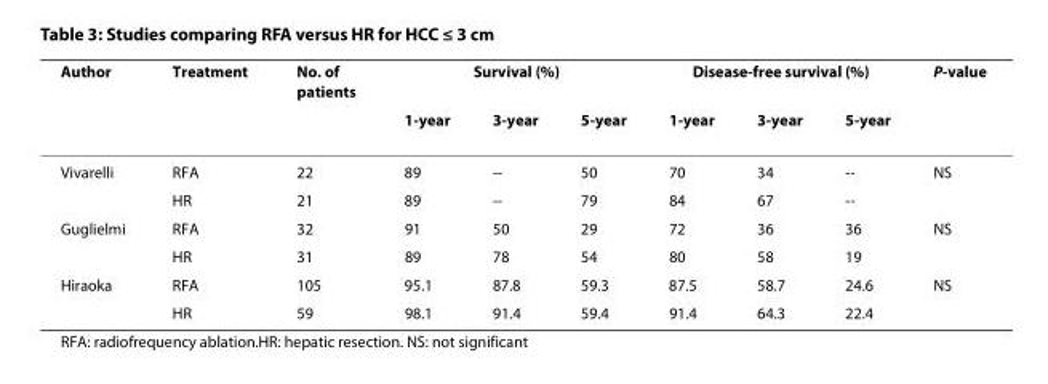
<table><thead><tr><td rowspan="2">Author</td><td rowspan="2">Treatment</td><td rowspan="2">No. of patients</td><td colspan="3">Survival (%)</td><td colspan="3">Disease-free survival (%)</td><td rowspan="2">P-value</td></tr><tr><td>1-year</td><td>3-year</td><td>5-year</td><td>1-year</td><td>3-year</td><td>5-year</td></tr></thead><tbody><tr><td rowspan="2">Vivarelli</td><td>RFA</td><td>22</td><td>89</td><td>--</td><td>50</td><td>70</td><td>34</td><td>--</td><td>NS</td></tr><tr><td>HR</td><td>21</td><td>89</td><td>--</td><td>79</td><td>84</td><td>67</td><td>--</td><td></td></tr><tr><td rowspan="2">Guglielmi</td><td>RFA</td><td>32</td><td>91</td><td>50</td><td>29</td><td>72</td><td>36</td><td>36</td><td>NS</td></tr><tr><td>HR</td><td>31</td><td>89</td><td>78</td><td>54</td><td>80</td><td>58</td><td>19</td><td></td></tr><tr><td rowspan="2">Hiraoka</td><td>RFA</td><td>105</td><td>95.1</td><td>87.8</td><td>59.3</td><td>87.5</td><td>58.7</td><td>24.6</td><td>NS</td></tr><tr><td>HR</td><td>59</td><td>98.1</td><td>91.4</td><td>59.4</td><td>91.4</td><td>64.3</td><td>22.4</td><td></td></tr></tbody></table>